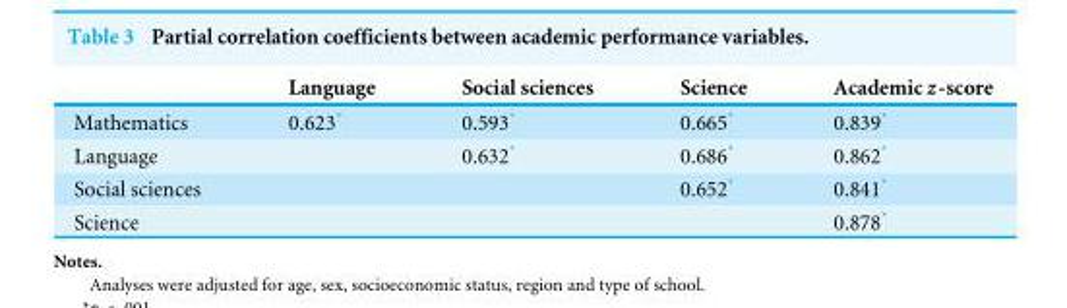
<table><thead><tr><td></td><td>Language</td><td>Social sciences</td><td>Science</td><td>Academic z-score</td></tr></thead><tbody><tr><td>Mathematics</td><td>0.623*</td><td>0.593*</td><td>0.665*</td><td>0.839*</td></tr><tr><td>Language</td><td></td><td>0.632*</td><td>0.686*</td><td>0.862*</td></tr><tr><td>Social sciences</td><td></td><td></td><td>0.652*</td><td>0.841*</td></tr><tr><td>Science</td><td></td><td></td><td></td><td>0.878*</td></tr></tbody></table>